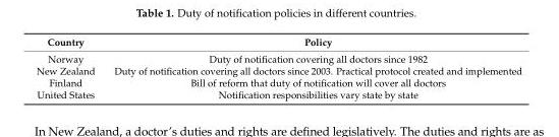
<table><thead><tr><td>Country</td><td>Policy</td></tr></thead><tbody><tr><td>Norway</td><td>Duty of notification covering all doctors since 1982</td></tr><tr><td>New Zealand</td><td>Duty of notification covering all doctors since 2003. Practical protocol created and implemented</td></tr><tr><td>Finland</td><td>Bill of reform that duty of notification will cover all doctors</td></tr><tr><td>United States</td><td>Notification responsibilities vary state by state</td></tr></tbody></table>